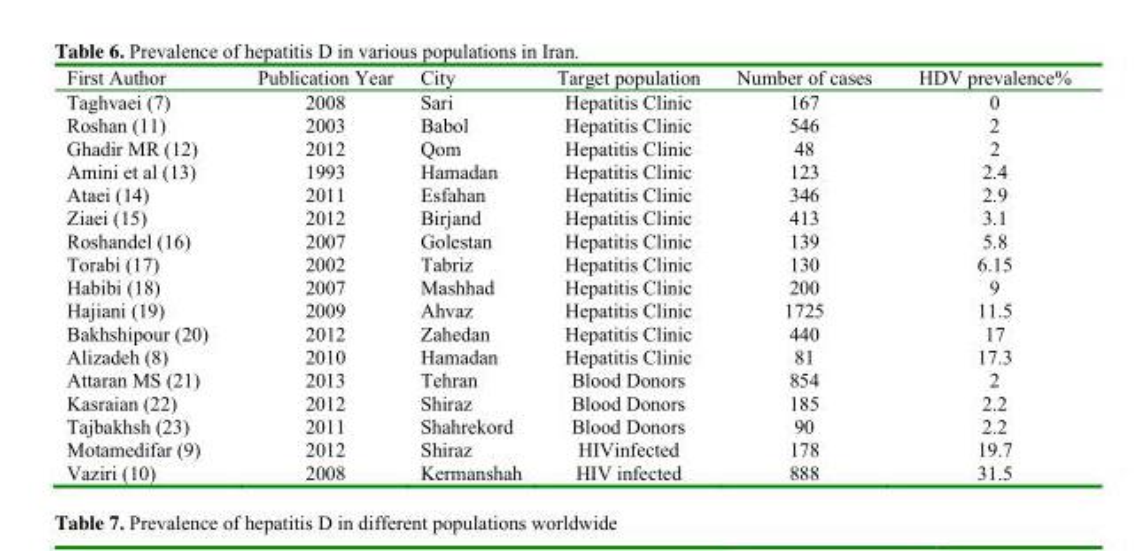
<table><thead><tr><td>First Author</td><td>Publication Year</td><td>City</td><td>Target population</td><td>Number of cases</td><td>HDV prevalence%</td></tr></thead><tbody><tr><td>Taghvaei (7)</td><td>2008</td><td>Sari</td><td>Hepatitis Clinic</td><td>167</td><td>0</td></tr><tr><td>Roshan (11)</td><td>2003</td><td>Babol</td><td>Hepatitis Clinic</td><td>546</td><td>2</td></tr><tr><td>Ghadir MR (12)</td><td>2012</td><td>Qom</td><td>Hepatitis Clinic</td><td>48</td><td>2</td></tr><tr><td>Amini et al (13)</td><td>1993</td><td>Hamadan</td><td>Hepatitis Clinic</td><td>123</td><td>2.4</td></tr><tr><td>Ataei (14)</td><td>2011</td><td>Esfahan</td><td>Hepatitis Clinic</td><td>346</td><td>2.9</td></tr><tr><td>Ziaei (15)</td><td>2012</td><td>Birjand</td><td>Hepatitis Clinic</td><td>413</td><td>3.1</td></tr><tr><td>Roshandel (16)</td><td>2007</td><td>Golestan</td><td>Hepatitis Clinic</td><td>139</td><td>5.8</td></tr><tr><td>Torabi (17)</td><td>2002</td><td>Tabriz</td><td>Hepatitis Clinic</td><td>130</td><td>6.15</td></tr><tr><td>Habibi (18)</td><td>2007</td><td>Mashhad</td><td>Hepatitis Clinic</td><td>200</td><td>9</td></tr><tr><td>Hajiani (19)</td><td>2009</td><td>Ahvaz</td><td>Hepatitis Clinic</td><td>1725</td><td>11.5</td></tr><tr><td>Bakhshipour (20)</td><td>2012</td><td>Zahedan</td><td>Hepatitis Clinic</td><td>440</td><td>17</td></tr><tr><td>Alizadeh (8)</td><td>2010</td><td>Hamadan</td><td>Hepatitis Clinic</td><td>81</td><td>17.3</td></tr><tr><td>Attaran MS (21)</td><td>2013</td><td>Tehran</td><td>Blood Donors</td><td>854</td><td>2</td></tr><tr><td>Kasraian (22)</td><td>2012</td><td>Shiraz</td><td>Blood Donors</td><td>185</td><td>2.2</td></tr><tr><td>Tajbakhsh (23)</td><td>2011</td><td>Shahrekord</td><td>Blood Donors</td><td>90</td><td>2.2</td></tr><tr><td>Motamedifar (9)</td><td>2012</td><td>Shiraz</td><td>HIVinfected</td><td>178</td><td>19.7</td></tr><tr><td>Vaziri (10)</td><td>2008</td><td>Kermanshah</td><td>HIV infected</td><td>888</td><td>31.5</td></tr></tbody></table>